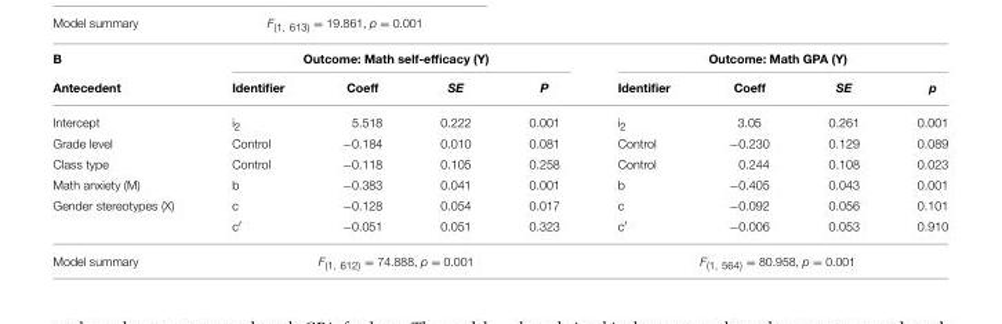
<table><thead><tr><td rowspan="2">B Antecedent</td><td colspan="4">Outcome: Math self-efficacy (Y)</td><td colspan="4">Outcome: Math GPA (Y)</td></tr><tr><td>Identifier</td><td>Coeff</td><td>SE</td><td>P</td><td>Identifier</td><td>Coeff</td><td>SE</td><td>p</td></tr></thead><tbody><tr><td>Intercept</td><td>i<sub>2</sub></td><td>5.518</td><td>0.222</td><td>0.001</td><td>i<sub>2</sub></td><td>3.05</td><td>0.261</td><td>0.001</td></tr><tr><td>Grade level</td><td>Control</td><td>−0.184</td><td>0.010</td><td>0.081</td><td>Control</td><td>−0.230</td><td>0.129</td><td>0.089</td></tr><tr><td>Class type</td><td>Control</td><td>−0.118</td><td>0.105</td><td>0.258</td><td>Control</td><td>0.244</td><td>0.108</td><td>0.023</td></tr><tr><td>Math anxiety (M)</td><td>b</td><td>−0.383</td><td>0.041</td><td>0.001</td><td>b</td><td>−0.405</td><td>0.043</td><td>0.001</td></tr><tr><td rowspan="2">Gender stereotypes (X)</td><td>c</td><td>−0.128</td><td>0.054</td><td>0.017</td><td>c</td><td>−0.092</td><td>0.056</td><td>0.101</td></tr><tr><td>c′</td><td>−0.051</td><td>0.051</td><td>0.323</td><td>c′</td><td>−0.006</td><td>0.053</td><td>0.910</td></tr><tr><td>Model summary</td><td colspan="4">F<sub>(1, 612)</sub> = 74.888, p = 0.001</td><td colspan="4">F<sub>(1, 564)</sub> = 80.958, p = 0.001</td></tr></tbody></table>